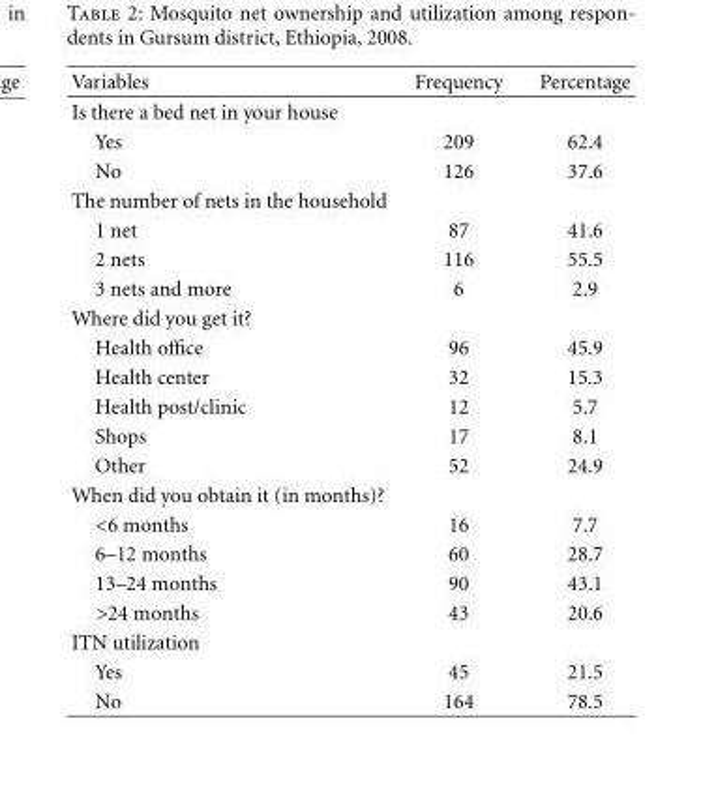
<table><thead><tr><td>Variables</td><td>Frequency</td><td>Percentage</td></tr></thead><tbody><tr><td colspan="3">Is there a bed net in your house</td></tr><tr><td>Yes</td><td>209</td><td>62.4</td></tr><tr><td>No</td><td>126</td><td>37.6</td></tr><tr><td colspan="3">The number of nets in the household</td></tr><tr><td>1 net</td><td>87</td><td>41.6</td></tr><tr><td>2 nets</td><td>116</td><td>55.5</td></tr><tr><td>3 nets and more</td><td>6</td><td>2.9</td></tr><tr><td colspan="3">Where did you get it?</td></tr><tr><td>Health office</td><td>96</td><td>45.9</td></tr><tr><td>Health center</td><td>32</td><td>15.3</td></tr><tr><td>Health post/clinic</td><td>12</td><td>5.7</td></tr><tr><td>Shops</td><td>17</td><td>8.1</td></tr><tr><td>Other</td><td>52</td><td>24.9</td></tr><tr><td colspan="3">When did you obtain it (in months)?</td></tr><tr><td>&lt;6 months</td><td>16</td><td>7.7</td></tr><tr><td>6–12 months</td><td>60</td><td>28.7</td></tr><tr><td>13–24 months</td><td>90</td><td>43.1</td></tr><tr><td>&gt;24 months</td><td>43</td><td>20.6</td></tr><tr><td colspan="3">ITN utilization</td></tr><tr><td>Yes</td><td>45</td><td>21.5</td></tr><tr><td>No</td><td>164</td><td>78.5</td></tr></tbody></table>